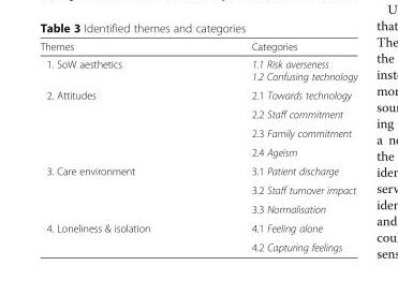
<table><thead><tr><td>Themes</td><td>Categories</td></tr></thead><tbody><tr><td>1. SoW aesthetics</td><td>1.1 Risk averseness 1.2 Confusing technology</td></tr><tr><td rowspan="4">2. Attitudes</td><td>2.1 Towards technology</td></tr><tr><td>2.2 Staff commitment</td></tr><tr><td>2.3 Family commitment</td></tr><tr><td>2.4 Ageism</td></tr><tr><td rowspan="3">3. Care environment</td><td>3.1 Patient discharge</td></tr><tr><td>3.2 Staff turnover impact</td></tr><tr><td>3.3 Normalisation</td></tr><tr><td rowspan="2">4. Loneliness &amp; isolation</td><td>4.1 Feeling alone</td></tr><tr><td>4.2 Capturing feelings</td></tr></tbody></table>